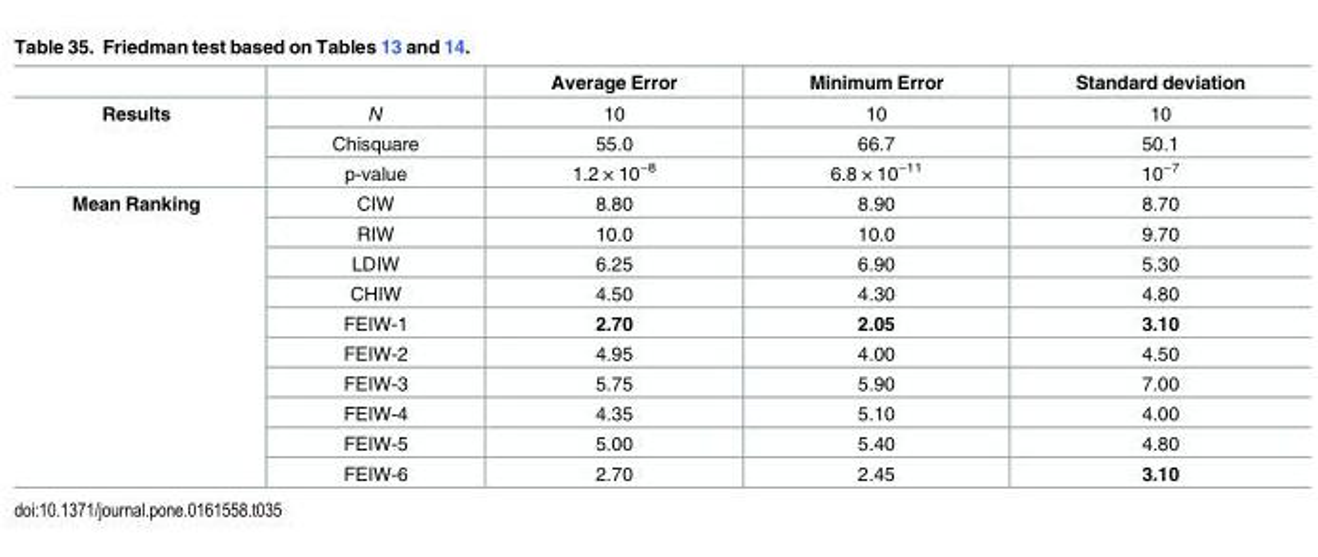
<table><thead><tr><td></td><td></td><td>Average Error</td><td>Minimum Error</td><td>Standard deviation</td></tr></thead><tbody><tr><td rowspan="3">Results</td><td>N</td><td>10</td><td>10</td><td>10</td></tr><tr><td>Chisquare</td><td>55.0</td><td>66.7</td><td>50.1</td></tr><tr><td>p-value</td><td>1.2 × 10<sup>−8</sup></td><td>6.8 × 10<sup>−11</sup></td><td>10<sup>−7</sup></td></tr><tr><td rowspan="10">Mean Ranking</td><td>CIW</td><td>8.80</td><td>8.90</td><td>8.70</td></tr><tr><td>RIW</td><td>10.0</td><td>10.0</td><td>9.70</td></tr><tr><td>LDIW</td><td>6.25</td><td>6.90</td><td>5.30</td></tr><tr><td>CHIW</td><td>4.50</td><td>4.30</td><td>4.80</td></tr><tr><td>FEIW-1</td><td>2.70</td><td>2.05</td><td>3.10</td></tr><tr><td>FEIW-2</td><td>4.95</td><td>4.00</td><td>4.50</td></tr><tr><td>FEIW-3</td><td>5.75</td><td>5.90</td><td>7.00</td></tr><tr><td>FEIW-4</td><td>4.35</td><td>5.10</td><td>4.00</td></tr><tr><td>FEIW-5</td><td>5.00</td><td>5.40</td><td>4.80</td></tr><tr><td>FEIW-6</td><td>2.70</td><td>2.45</td><td>3.10</td></tr></tbody></table>